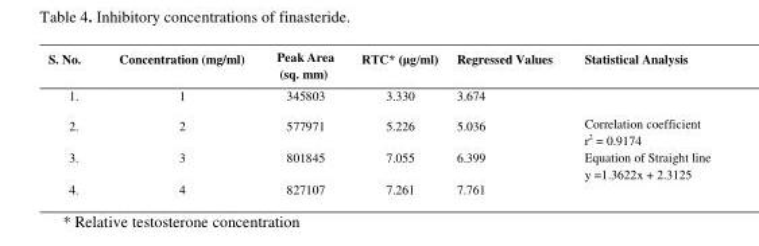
<table><thead><tr><td>S. No.</td><td>Concentration (mg/ml)</td><td>Peak Area (sq. mm)</td><td>RTC* (μg/ml)</td><td>Regressed Values</td><td>Statistical Analysis</td></tr></thead><tbody><tr><td>1.</td><td>1</td><td>345803</td><td>3.330</td><td>3.674</td><td rowspan="4">Correlation coefficient r<sup>2</sup> = 0.9174 Equation of Straight line y =1.3622x + 2.3125</td></tr><tr><td>2.</td><td>2</td><td>577971</td><td>5.226</td><td>5.036</td></tr><tr><td>3.</td><td>3</td><td>801845</td><td>7.055</td><td>6.399</td></tr><tr><td>4.</td><td>4</td><td>827107</td><td>7.261</td><td>7.761</td></tr></tbody></table>